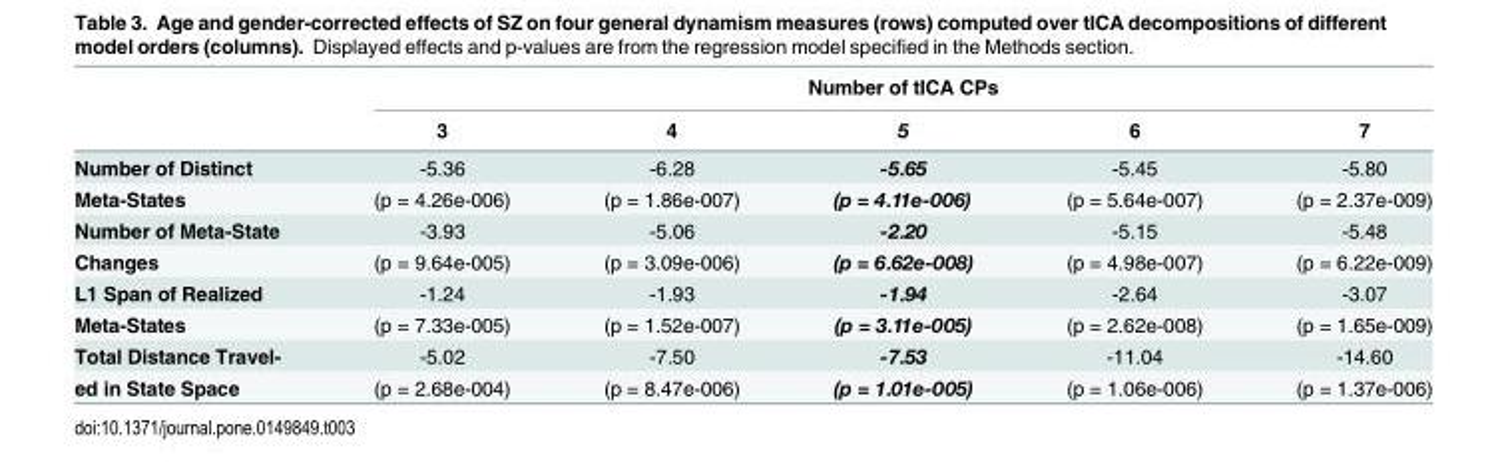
<table><thead><tr><td rowspan="2"></td><td colspan="5">Number of tICA CPs</td></tr><tr><td>3</td><td>4</td><td>5</td><td>6</td><td>7</td></tr></thead><tbody><tr><td>Number of Distinct</td><td>-5.36</td><td>-6.28</td><td>-5.65</td><td>-5.45</td><td>-5.80</td></tr><tr><td>Meta-States</td><td>(p = 4.26e-006)</td><td>(p = 1.86e-007)</td><td>(p = 4.11e-006)</td><td>(p = 5.64e-007)</td><td>(p = 2.37e-009)</td></tr><tr><td>Number of Meta-State</td><td>-3.93</td><td>-5.06</td><td>-2.20</td><td>-5.15</td><td>-5.48</td></tr><tr><td>Changes</td><td>(p = 9.64e-005)</td><td>(p = 3.09e-006)</td><td>(p = 6.62e-008)</td><td>(p = 4.98e-007)</td><td>(p = 6.22e-009)</td></tr><tr><td>L1 Span of Realized</td><td>-1.24</td><td>-1.93</td><td>-1.94</td><td>-2.64</td><td>-3.07</td></tr><tr><td>Meta-States</td><td>(p = 7.33e-005)</td><td>(p = 1.52e-007)</td><td>(p = 3.11e-005)</td><td>(p = 2.62e-008)</td><td>(p = 1.65e-009)</td></tr><tr><td>Total Distance Travel-</td><td>-5.02</td><td>-7.50</td><td>-7.53</td><td>-11.04</td><td>-14.60</td></tr><tr><td>ed in State Space</td><td>(p = 2.68e-004)</td><td>(p = 8.47e-006)</td><td>(p = 1.01e-005)</td><td>(p = 1.06e-006)</td><td>(p = 1.37e-006)</td></tr></tbody></table>